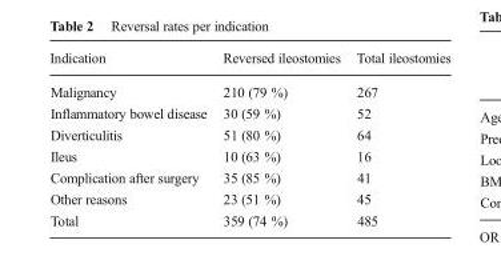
<table><thead><tr><td>Indication</td><td>Reversed ileostomies</td><td>Total ileostomies</td></tr></thead><tbody><tr><td>Malignancy</td><td>210 (79 %)</td><td>267</td></tr><tr><td>Inflammatory bowel disease</td><td>30 (59 %)</td><td>52</td></tr><tr><td>Diverticulitis</td><td>51 (80 %)</td><td>64</td></tr><tr><td>Ileus</td><td>10 (63 %)</td><td>16</td></tr><tr><td>Complication after surgery</td><td>35 (85 %)</td><td>41</td></tr><tr><td>Other reasons</td><td>23 (51 %)</td><td>45</td></tr><tr><td>Total</td><td>359 (74 %)</td><td>485</td></tr></tbody></table>